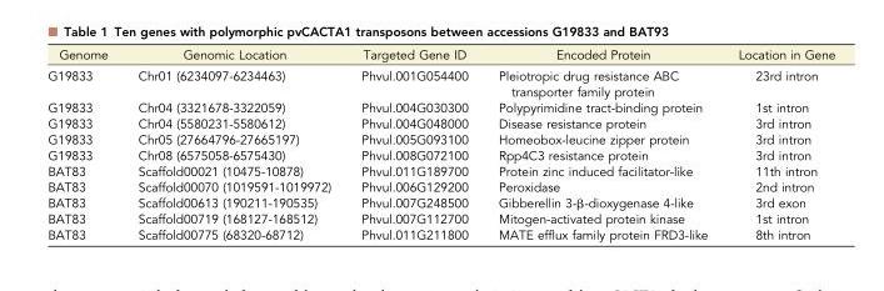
<table><thead><tr><td>Genome</td><td>Genomic Location</td><td>Targeted Gene ID</td><td>Encoded Protein</td><td>Location in Gene</td></tr></thead><tbody><tr><td>G19833</td><td>Chr01 (6234097-6234463)</td><td>Phvul.001G054400</td><td>Pleiotropic drug resistance ABC transporter family protein</td><td>23rd intron</td></tr><tr><td>G19833</td><td>Chr04 (3321678-3322059)</td><td>Phvul.004G030300</td><td>Polypyrimidine tract-binding protein</td><td>1st intron</td></tr><tr><td>G19833</td><td>Chr04 (5580231-5580612)</td><td>Phvul.004G048000</td><td>Disease resistance protein</td><td>3rd intron</td></tr><tr><td>G19833</td><td>Chr05 (27664796-27665197)</td><td>Phvul.005G093100</td><td>Homeobox-leucine zipper protein</td><td>3rd intron</td></tr><tr><td>G19833</td><td>Chr08 (6575058-6575430)</td><td>Phvul.008G072100</td><td>Rpp4C3 resistance protein</td><td>3rd intron</td></tr><tr><td>BAT83</td><td>Scaffold00021 (10475-10878)</td><td>Phvul.011G189700</td><td>Protein zinc induced facilitator-like</td><td>11th intron</td></tr><tr><td>BAT83</td><td>Scaffold00070 (1019591-1019972)</td><td>Phvul.006G129200</td><td>Peroxidase</td><td>2nd intron</td></tr><tr><td>BAT83</td><td>Scaffold00613 (190211-190535)</td><td>Phvul.007G248500</td><td>Gibberellin 3-β-dioxygenase 4-like</td><td>3rd exon</td></tr><tr><td>BAT83</td><td>Scaffold00719 (168127-168512)</td><td>Phvul.007G112700</td><td>Mitogen-activated protein kinase</td><td>1st intron</td></tr><tr><td>BAT83</td><td>Scaffold00775 (68320-68712)</td><td>Phvul.011G211800</td><td>MATE efflux family protein FRD3-like</td><td>8th intron</td></tr></tbody></table>